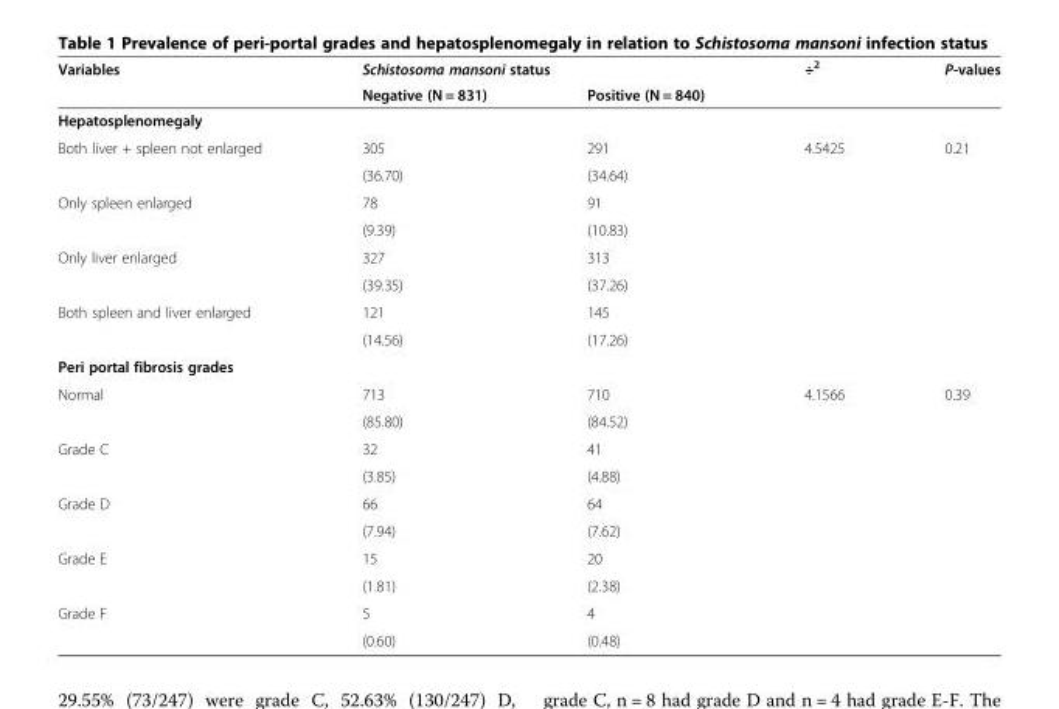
<table><thead><tr><td rowspan="2">Variables</td><td colspan="2">Schistosoma mansoni status</td><td rowspan="2">÷<sup>2</sup></td><td rowspan="2">P-values</td></tr><tr><td>Negative (N = 831)</td><td>Positive (N = 840)</td></tr></thead><tbody><tr><td colspan="5">Hepatosplenomegaly</td></tr><tr><td rowspan="2">Both liver + spleen not enlarged</td><td>305</td><td>291</td><td rowspan="8">4.5425</td><td rowspan="8">0.21</td></tr><tr><td>(36.70)</td><td>(34.64)</td></tr><tr><td rowspan="2">Only spleen enlarged</td><td>78</td><td>91</td></tr><tr><td>(9.39)</td><td>(10.83)</td></tr><tr><td rowspan="2">Only liver enlarged</td><td>327</td><td>313</td></tr><tr><td>(39.35)</td><td>(37.26)</td></tr><tr><td rowspan="2">Both spleen and liver enlarged</td><td>121</td><td>145</td></tr><tr><td>(14.56)</td><td>(17.26)</td></tr><tr><td colspan="5">Peri portal fibrosis grades</td></tr><tr><td rowspan="2">Normal</td><td>713</td><td>710</td><td rowspan="10">4.1566</td><td rowspan="10">0.39</td></tr><tr><td>(85.80)</td><td>(84.52)</td></tr><tr><td rowspan="2">Grade C</td><td>32</td><td>41</td></tr><tr><td>(3.85)</td><td>(4.88)</td></tr><tr><td rowspan="2">Grade D</td><td>66</td><td>64</td></tr><tr><td>(7.94)</td><td>(7.62)</td></tr><tr><td rowspan="2">Grade E</td><td>15</td><td>20</td></tr><tr><td>(1.81)</td><td>(2.38)</td></tr><tr><td rowspan="2">Grade F</td><td>5</td><td>4</td></tr><tr><td>(0.60)</td><td>(0.48)</td></tr></tbody></table>